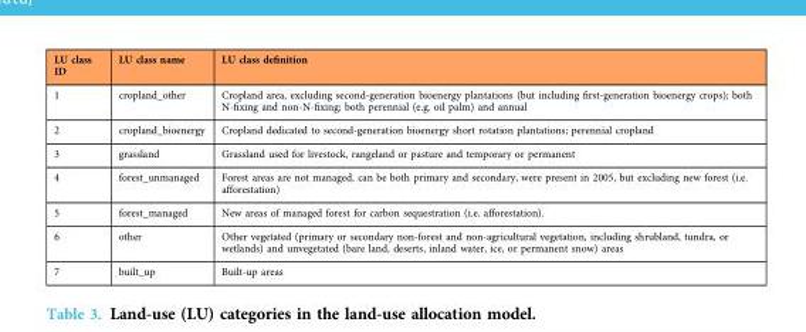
<table><thead><tr><td>LU class ID</td><td>LU class name</td><td>LU class definition</td></tr></thead><tbody><tr><td>1</td><td>cropland_other</td><td>Cropland area, excluding second-generation bioenergy plantations (but including first-generation bioenergy crops); both N-fixing and non-N-fixing; both perennial (e.g. oil palm) and annual</td></tr><tr><td>2</td><td>cropland_bioenergy</td><td>Cropland dedicated to second-generation bioenergy short rotation plantations; perennial cropland</td></tr><tr><td>3</td><td>grassland</td><td>Grassland used for livestock, rangeland or pasture and temporary or permanent</td></tr><tr><td>4</td><td>forest_unmanaged</td><td>Forest areas are not managed, can be both primary and secondary, were present in 2005, but excluding new forest (i.e. afforestation)</td></tr><tr><td>5</td><td>forest_managed</td><td>New areas of managed forest for carbon sequestration (i.e. afforestation).</td></tr><tr><td>6</td><td>other</td><td>Other vegetated (primary or secondary non-forest and non-agricultural vegetation, including shrubland, tundra, or wetlands) and unvegetated (bare land, deserts, inland water, ice, or permanent snow) areas</td></tr><tr><td>7</td><td>built_up</td><td>Built-up areas</td></tr></tbody></table>